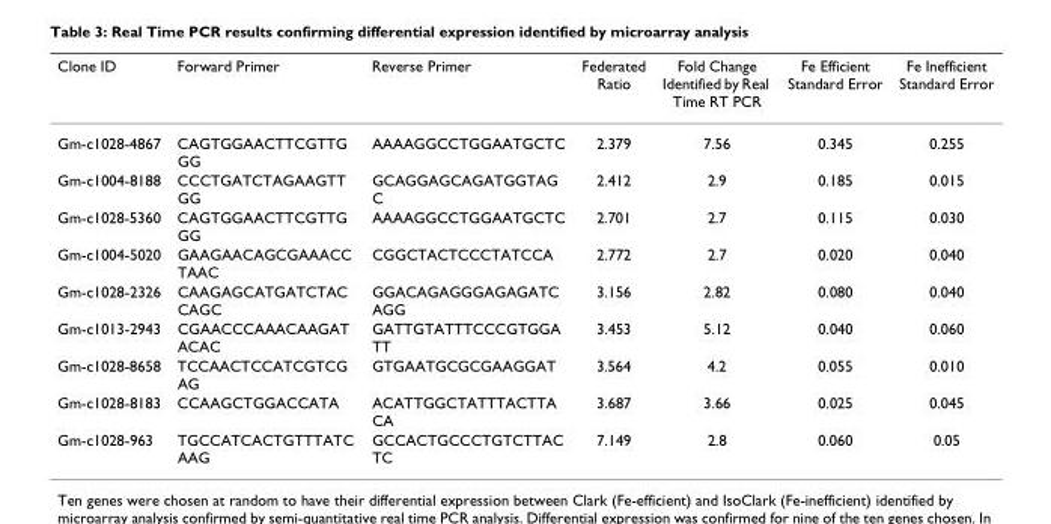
<table><thead><tr><td>Clone ID</td><td>Forward Primer</td><td>Reverse Primer</td><td>Federated Ratio</td><td>Fold Change Identified by Real Time RT PCR</td><td>Fe Efficient Standard Error</td><td>Fe Inefficient Standard Error</td></tr></thead><tbody><tr><td>Gm-c1028-4867</td><td>CAGTGGAACTTCGTTG GG</td><td>AAAAGGCCTGGAATGCTC</td><td>2.379</td><td>7.56</td><td>0.345</td><td>0.255</td></tr><tr><td>Gm-c1004-8188</td><td>CCCTGATCTAGAAGTT GG</td><td>GCAGGAGCAGATGGTAG C</td><td>2.412</td><td>2.9</td><td>0.185</td><td>0.015</td></tr><tr><td>Gm-c1028-5360</td><td>CAGTGGAACTTCGTTG GG</td><td>AAAAGGCCTGGAATGCTC</td><td>2.701</td><td>2.7</td><td>0.115</td><td>0.030</td></tr><tr><td>Gm-c1004-5020</td><td>GAAGAACAGCGAAACC TAAC</td><td>CGGCTACTCCCTATCCA</td><td>2.772</td><td>2.7</td><td>0.020</td><td>0.040</td></tr><tr><td>Gm-c1028-2326</td><td>CAAGAGCATGATCTAC CAGC</td><td>GGACAGAGGGAGAGATC AGG</td><td>3.156</td><td>2.82</td><td>0.080</td><td>0.040</td></tr><tr><td>Gm-c1013-2943</td><td>CGAACCCAAACAAGAT ACAC</td><td>GATTGTATTTCCCGTGGA TT</td><td>3.453</td><td>5.12</td><td>0.040</td><td>0.060</td></tr><tr><td>Gm-c1028-8658</td><td>TCCAACTCCATCGTCG AG</td><td>GTGAATGCGCGAAGGAT</td><td>3.564</td><td>4.2</td><td>0.055</td><td>0.010</td></tr><tr><td>Gm-c1028-8183</td><td>CCAAGCTGGACCATA</td><td>ACATTGGCTATTTACTTA CA</td><td>3.687</td><td>3.66</td><td>0.025</td><td>0.045</td></tr><tr><td>Gm-c1028-963</td><td>TGCCATCACTGTTTATC AAG</td><td>GCCACTGCCCTGTCTTAC TC</td><td>7.149</td><td>2.8</td><td>0.060</td><td>0.05</td></tr></tbody></table>